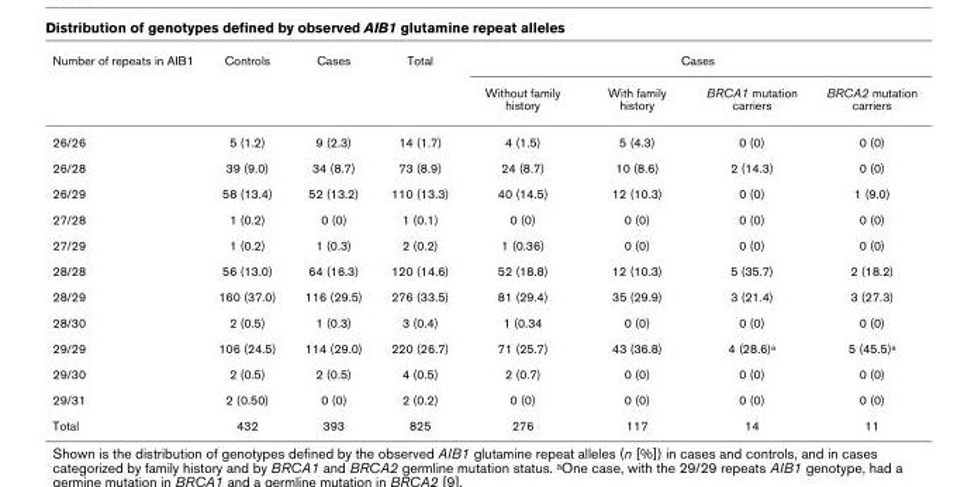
<table><thead><tr><td rowspan="2">Number of repeats in AIB1</td><td rowspan="2">Controls</td><td rowspan="2">Cases</td><td rowspan="2">Total</td><td colspan="4">Cases</td></tr><tr><td>Without family history</td><td>With family history</td><td>BRCA1 mutation carriers</td><td>BRCA2 mutation carriers</td></tr></thead><tbody><tr><td>26/26</td><td>5 (1.2)</td><td>9 (2.3)</td><td>14 (1.7)</td><td>4 (1.5)</td><td>5 (4.3)</td><td>0 (0)</td><td>0 (0)</td></tr><tr><td>26/28</td><td>39 (9.0)</td><td>34 (8.7)</td><td>73 (8.9)</td><td>24 (8.7)</td><td>10 (8.6)</td><td>2 (14.3)</td><td>0 (0)</td></tr><tr><td>26/29</td><td>58 (13.4)</td><td>52 (13.2)</td><td>110 (13.3)</td><td>40 (14.5)</td><td>12 (10.3)</td><td>0 (0)</td><td>1 (9.0)</td></tr><tr><td>27/28</td><td>1 (0.2)</td><td>0 (0)</td><td>1 (0.1)</td><td>0 (0)</td><td>0 (0)</td><td>0 (0)</td><td>0 (0)</td></tr><tr><td>27/29</td><td>1 (0.2)</td><td>1 (0.3)</td><td>2 (0.2)</td><td>1 (0.36)</td><td>0 (0)</td><td>0 (0)</td><td>0 (0)</td></tr><tr><td>28/28</td><td>56 (13.0)</td><td>64 (16.3)</td><td>120 (14.6)</td><td>52 (18.8)</td><td>12 (10.3)</td><td>5 (35.7)</td><td>2 (18.2)</td></tr><tr><td>28/29</td><td>160 (37.0)</td><td>116 (29.5)</td><td>276 (33.5)</td><td>81 (29.4)</td><td>35 (29.9)</td><td>3 (21.4)</td><td>3 (27.3)</td></tr><tr><td>28/30</td><td>2 (0.5)</td><td>1 (0.3)</td><td>3 (0.4)</td><td>1 (0.34</td><td>0 (0)</td><td>0 (0)</td><td>0 (0)</td></tr><tr><td>29/29</td><td>106 (24.5)</td><td>114 (29.0)</td><td>220 (26.7)</td><td>71 (25.7)</td><td>43 (36.8)</td><td>4 (28.6)a</td><td>5 (45.5)a</td></tr><tr><td>29/30</td><td>2 (0.5)</td><td>2 (0.5)</td><td>4 (0.5)</td><td>2 (0.7)</td><td>0 (0)</td><td>0 (0)</td><td>0 (0)</td></tr><tr><td>29/31</td><td>2 (0.50)</td><td>0 (0)</td><td>2 (0.2)</td><td>0 (0)</td><td>0 (0)</td><td>0 (0)</td><td>0 (0)</td></tr><tr><td>Total</td><td>432</td><td>393</td><td>825</td><td>276</td><td>117</td><td>14</td><td>11</td></tr></tbody></table>